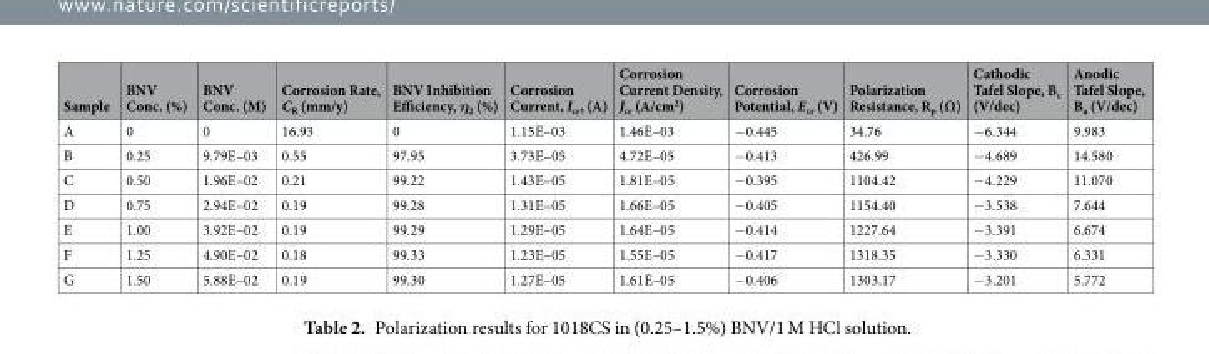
<table><thead><tr><td>Sample</td><td>BNV Conc. (%)</td><td>BNV Conc. (M)</td><td>Corrosion Rate, C<sub>R</sub> (mm/y)</td><td>BNV Inhibition Efficiency, η<sub>2</sub> (%)</td><td>Corrosion Current, I<sub>cr</sub>, (A)</td><td>Corrosion Current Density, J<sub>cr</sub> (A/cm<sup>2</sup>)</td><td>Corrosion Potential, E<sub>cr</sub> (V)</td><td>Polarization Resistance, R<sub>p</sub> (Ω)</td><td>Cathodic Tafel Slope, B<sub>c</sub> (V/dec)</td><td>Anodic Tafel Slope, B<sub>a</sub> (V/dec)</td></tr></thead><tbody><tr><td>A</td><td>0</td><td>0</td><td>16.93</td><td>0</td><td>1.15E–03</td><td>1.46E–03</td><td>−0.445</td><td>34.76</td><td>−6.344</td><td>9.983</td></tr><tr><td>B</td><td>0.25</td><td>9.79E–03</td><td>0.55</td><td>97.95</td><td>3.73E–05</td><td>4.72E–05</td><td>−0.413</td><td>426.99</td><td>−4.689</td><td>14.580</td></tr><tr><td>C</td><td>0.50</td><td>1.96E–02</td><td>0.21</td><td>99.22</td><td>1.43E–05</td><td>1.81E–05</td><td>−0.395</td><td>1104.42</td><td>−4.229</td><td>11.070</td></tr><tr><td>D</td><td>0.75</td><td>2.94E–02</td><td>0.19</td><td>99.28</td><td>1.31E–05</td><td>1.66E–05</td><td>−0.405</td><td>1154.40</td><td>−3.538</td><td>7.644</td></tr><tr><td>E</td><td>1.00</td><td>3.92E–02</td><td>0.19</td><td>99.29</td><td>1.29E–05</td><td>1.64E–05</td><td>−0.414</td><td>1227.64</td><td>−3.391</td><td>6.674</td></tr><tr><td>F</td><td>1.25</td><td>4.90E–02</td><td>0.18</td><td>99.33</td><td>1.23E–05</td><td>1.55E–05</td><td>−0.417</td><td>1318.35</td><td>−3.330</td><td>6.331</td></tr><tr><td>G</td><td>1.50</td><td>5.88E–02</td><td>0.19</td><td>99.30</td><td>1.27E–05</td><td>1.61E–05</td><td>−0.406</td><td>1303.17</td><td>−3.201</td><td>5.772</td></tr></tbody></table>